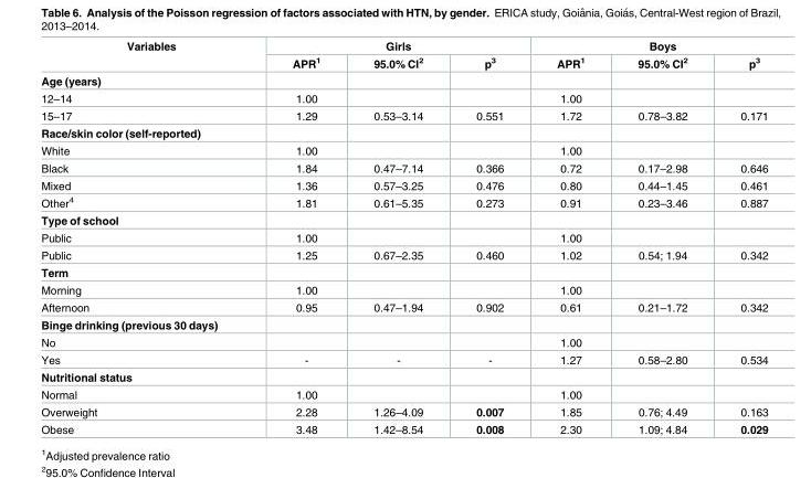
<table><thead><tr><td rowspan="2">Variables</td><td colspan="3">Girls</td><td colspan="3">Boys</td></tr><tr><td>APR<sup>1</sup></td><td>95.0% CI<sup>2</sup></td><td>p<sup>3</sup></td><td>APR<sup>1</sup></td><td>95.0% CI<sup>2</sup></td><td>p<sup>3</sup></td></tr></thead><tbody><tr><td colspan="7">Age (years)</td></tr><tr><td>12–14</td><td>1.00</td><td></td><td></td><td>1.00</td><td></td><td></td></tr><tr><td>15–17</td><td>1.29</td><td>0.53–3.14</td><td>0.551</td><td>1.72</td><td>0.78–3.82</td><td>0.171</td></tr><tr><td colspan="7">Race/skin color (self-reported)</td></tr><tr><td>White</td><td>1.00</td><td></td><td></td><td>1.00</td><td></td><td></td></tr><tr><td>Black</td><td>1.84</td><td>0.47–7.14</td><td>0.366</td><td>0.72</td><td>0.17–2.98</td><td>0.646</td></tr><tr><td>Mixed</td><td>1.36</td><td>0.57–3.25</td><td>0.476</td><td>0.80</td><td>0.44–1.45</td><td>0.461</td></tr><tr><td>Other<sup>4</sup></td><td>1.81</td><td>0.61–5.35</td><td>0.273</td><td>0.91</td><td>0.23–3.46</td><td>0.887</td></tr><tr><td colspan="7">Type of school</td></tr><tr><td>Public</td><td>1.00</td><td></td><td></td><td>1.00</td><td></td><td></td></tr><tr><td>Public</td><td>1.25</td><td>0.67–2.35</td><td>0.460</td><td>1.02</td><td>0.54; 1.94</td><td>0.342</td></tr><tr><td colspan="7">Term</td></tr><tr><td>Morning</td><td>1.00</td><td></td><td></td><td>1.00</td><td></td><td></td></tr><tr><td>Afternoon</td><td>0.95</td><td>0.47–1.94</td><td>0.902</td><td>0.61</td><td>0.21–1.72</td><td>0.342</td></tr><tr><td colspan="7">Binge drinking (previous 30 days)</td></tr><tr><td>No</td><td></td><td></td><td></td><td>1.00</td><td></td><td></td></tr><tr><td>Yes</td><td>-</td><td>-</td><td>-</td><td>1.27</td><td>0.58–2.80</td><td>0.534</td></tr><tr><td colspan="7">Nutritional status</td></tr><tr><td>Normal</td><td>1.00</td><td></td><td></td><td>1.00</td><td></td><td></td></tr><tr><td>Overweight</td><td>2.28</td><td>1.26–4.09</td><td>0.007</td><td>1.85</td><td>0.76; 4.49</td><td>0.163</td></tr><tr><td>Obese</td><td>3.48</td><td>1.42–8.54</td><td>0.008</td><td>2.30</td><td>1.09; 4.84</td><td>0.029</td></tr></tbody></table>